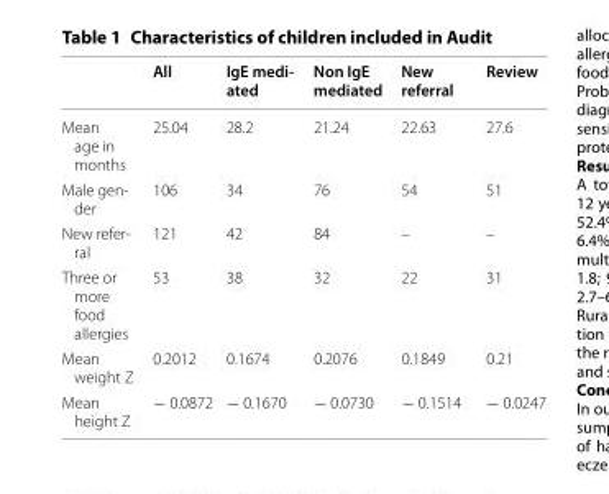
<table><thead><tr><td></td><td>All</td><td>IgE medi- ated</td><td>Non IgE mediated</td><td>New referral</td><td>Review</td></tr></thead><tbody><tr><td>Mean age in months</td><td>25.04</td><td>28.2</td><td>21.24</td><td>22.63</td><td>27.6</td></tr><tr><td>Male gen- der</td><td>106</td><td>34</td><td>76</td><td>54</td><td>51</td></tr><tr><td>New refer- ral</td><td>121</td><td>42</td><td>84</td><td>–</td><td>–</td></tr><tr><td>Three or more food allergies</td><td>53</td><td>38</td><td>32</td><td>22</td><td>31</td></tr><tr><td>Mean weight Z</td><td>0.2012</td><td>0.1674</td><td>0.2076</td><td>0.1849</td><td>0.21</td></tr><tr><td>Mean height Z</td><td>− 0.0872</td><td>− 0.1670</td><td>− 0.0730</td><td>− 0.1514</td><td>− 0.0247</td></tr></tbody></table>